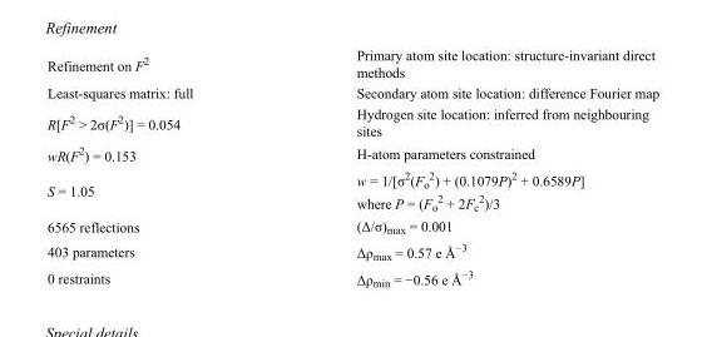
<table><tbody><tr><td>Refinement on F<sup>2</sup></td><td>Primary atom site location: structure-invariant direct methods</td></tr><tr><td>Least-squares matrix: full</td><td>Secondary atom site location: difference Fourier map</td></tr><tr><td>R[F<sup>2</sup> &gt; 2σ(F<sup>2</sup>)] = 0.054</td><td>Hydrogen site location: inferred from neighbouring sites</td></tr><tr><td>wR(F<sup>2</sup>) = 0.153</td><td>H-atom parameters constrained</td></tr><tr><td>S = 1.05</td><td>w = 1/[σ<sup>2</sup>(F<sub>o</sub> <sup>2</sup>) + (0.1079P)<sup>2</sup> + 0.6589P] where P = (F<sub>o</sub> <sup>2</sup> + 2F<sub>c</sub> <sup>2</sup>)/3</td></tr><tr><td>6565 reflections</td><td>(Δ/σ)<sub>max</sub> = 0.001</td></tr><tr><td>403 parameters</td><td>Δρ<sub>max</sub> = 0.57 e Å<sup>−3</sup></td></tr><tr><td>0 restraints</td><td>Δρ<sub>min</sub> = −0.56 e Å<sup>−3</sup></td></tr></tbody></table>